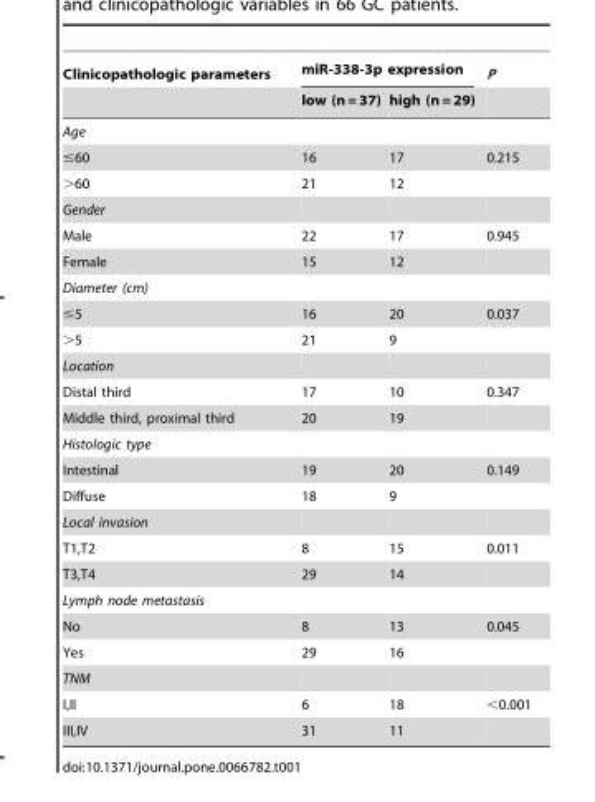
<table><thead><tr><td rowspan="2">Clinicopathologic parameters</td><td colspan="2">miR-338-3p expression</td><td rowspan="2">P</td></tr><tr><td>low (n = 37)</td><td>high (n = 29)</td></tr></thead><tbody><tr><td colspan="4">Age</td></tr><tr><td>≤60</td><td>16</td><td>17</td><td>0.215</td></tr><tr><td>&gt;60</td><td>21</td><td>12</td><td></td></tr><tr><td colspan="4">Gender</td></tr><tr><td>Male</td><td>22</td><td>17</td><td>0.945</td></tr><tr><td>Female</td><td>15</td><td>12</td><td></td></tr><tr><td colspan="4">Diameter (cm)</td></tr><tr><td>≤5</td><td>16</td><td>20</td><td>0.037</td></tr><tr><td>&gt;5</td><td>21</td><td>9</td><td></td></tr><tr><td colspan="4">Location</td></tr><tr><td>Distal third</td><td>17</td><td>10</td><td>0.347</td></tr><tr><td>Middle third, proximal third</td><td>20</td><td>19</td><td></td></tr><tr><td colspan="4">Histologic type</td></tr><tr><td>Intestinal</td><td>19</td><td>20</td><td>0.149</td></tr><tr><td>Diffuse</td><td>18</td><td>9</td><td></td></tr><tr><td colspan="4">Local invasion</td></tr><tr><td>T1,T2</td><td>8</td><td>15</td><td>0.011</td></tr><tr><td>T3,T4</td><td>29</td><td>14</td><td></td></tr><tr><td colspan="4">Lymph node metastasis</td></tr><tr><td>No</td><td>8</td><td>13</td><td>0.045</td></tr><tr><td>Yes</td><td>29</td><td>16</td><td></td></tr><tr><td colspan="4">TNM</td></tr><tr><td>I,II</td><td>6</td><td>18</td><td>&lt;0.001</td></tr><tr><td>III,IV</td><td>31</td><td>11</td><td></td></tr></tbody></table>